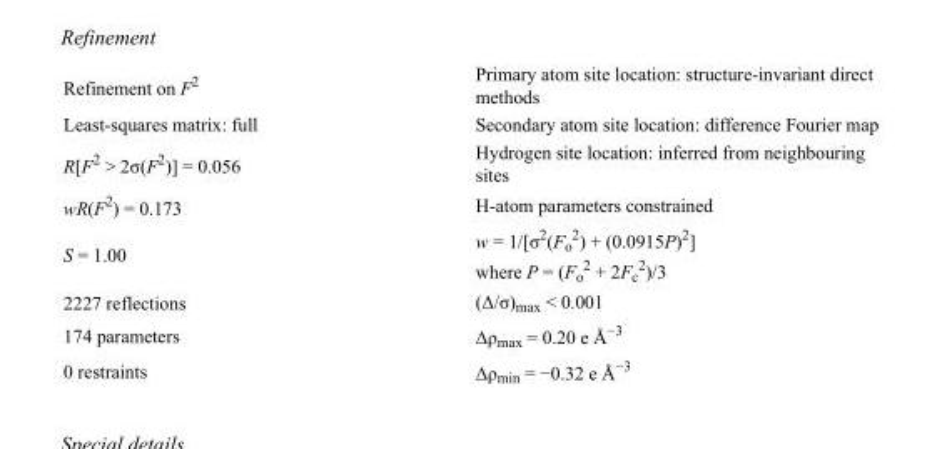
<table><tbody><tr><td>Refinement on F<sup>2</sup></td><td>Primary atom site location: structure-invariant direct methods</td></tr><tr><td>Least-squares matrix: full</td><td>Secondary atom site location: difference Fourier map</td></tr><tr><td>R[F<sup>2</sup> &gt; 2σ(F<sup>2</sup>)] = 0.056</td><td>Hydrogen site location: inferred from neighbouring sites</td></tr><tr><td>wR(F<sup>2</sup>) = 0.173</td><td>H-atom parameters constrained</td></tr><tr><td>S = 1.00</td><td>w = 1/[σ<sup>2</sup>(F<sub>o</sub> <sup>2</sup>) + (0.0915P)<sup>2</sup>] where P = (F<sub>o</sub> <sup>2</sup> + 2F<sub>c</sub> <sup>2</sup>)/3</td></tr><tr><td>2227 reflections</td><td>(Δ/σ)<sub>max</sub> &lt; 0.001</td></tr><tr><td>174 parameters</td><td>Δρ<sub>max</sub> = 0.20 e Å<sup>−3</sup></td></tr><tr><td>0 restraints</td><td>Δρ<sub>min</sub> = −0.32 e Å<sup>−3</sup></td></tr></tbody></table>